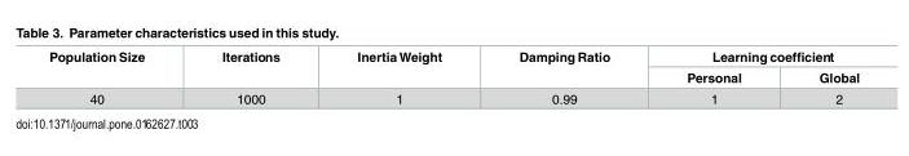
<table><thead><tr><td rowspan="2">Population Size</td><td rowspan="2">Iterations</td><td rowspan="2">Inertia Weight</td><td rowspan="2">Damping Ratio</td><td colspan="2">Learning coefficient</td></tr><tr><td>Personal</td><td>Global</td></tr></thead><tbody><tr><td>40</td><td>1000</td><td>1</td><td>0.99</td><td>1</td><td>2</td></tr></tbody></table>